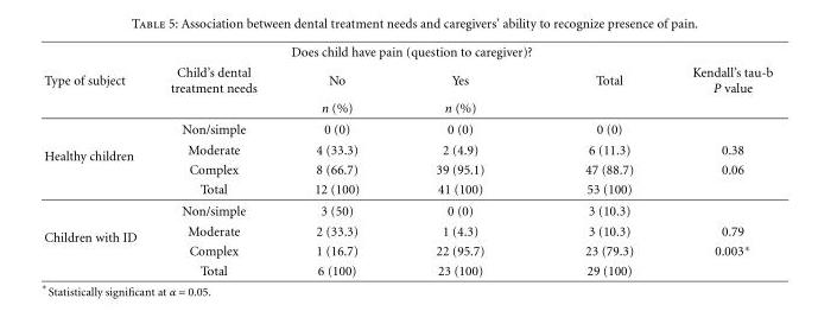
<table><thead><tr><td rowspan="3">Type of subject</td><td rowspan="3">Child’s dental treatment needs</td><td colspan="2">Does child have pain (question to caregiver)?</td><td rowspan="3">Total</td><td rowspan="3">Kendall’s tau-b P value</td></tr><tr><td rowspan="2">No n (%)</td><td rowspan="2">Yes n (%)</td></tr><tr></tr></thead><tbody><tr><td rowspan="4">Healthy children</td><td>Non/simple</td><td>0 (0)</td><td>0 (0)</td><td>0 (0)</td><td></td></tr><tr><td>Moderate</td><td>4 (33.3)</td><td>2 (4.9)</td><td>6 (11.3)</td><td>0.38</td></tr><tr><td>Complex</td><td>8 (66.7)</td><td>39 (95.1)</td><td>47 (88.7)</td><td>0.06</td></tr><tr><td>Total</td><td>12 (100)</td><td>41 (100)</td><td>53 (100)</td><td></td></tr><tr><td rowspan="4">Children with ID</td><td>Non/simple</td><td>3 (50)</td><td>0 (0)</td><td>3 (10.3)</td><td></td></tr><tr><td>Moderate</td><td>2 (33.3)</td><td>1 (4.3)</td><td>3 (10.3)</td><td>0.79</td></tr><tr><td>Complex</td><td>1 (16.7)</td><td>22 (95.7)</td><td>23 (79.3)</td><td>0.003∗</td></tr><tr><td>Total</td><td>6 (100)</td><td>23 (100)</td><td>29 (100)</td><td></td></tr></tbody></table>